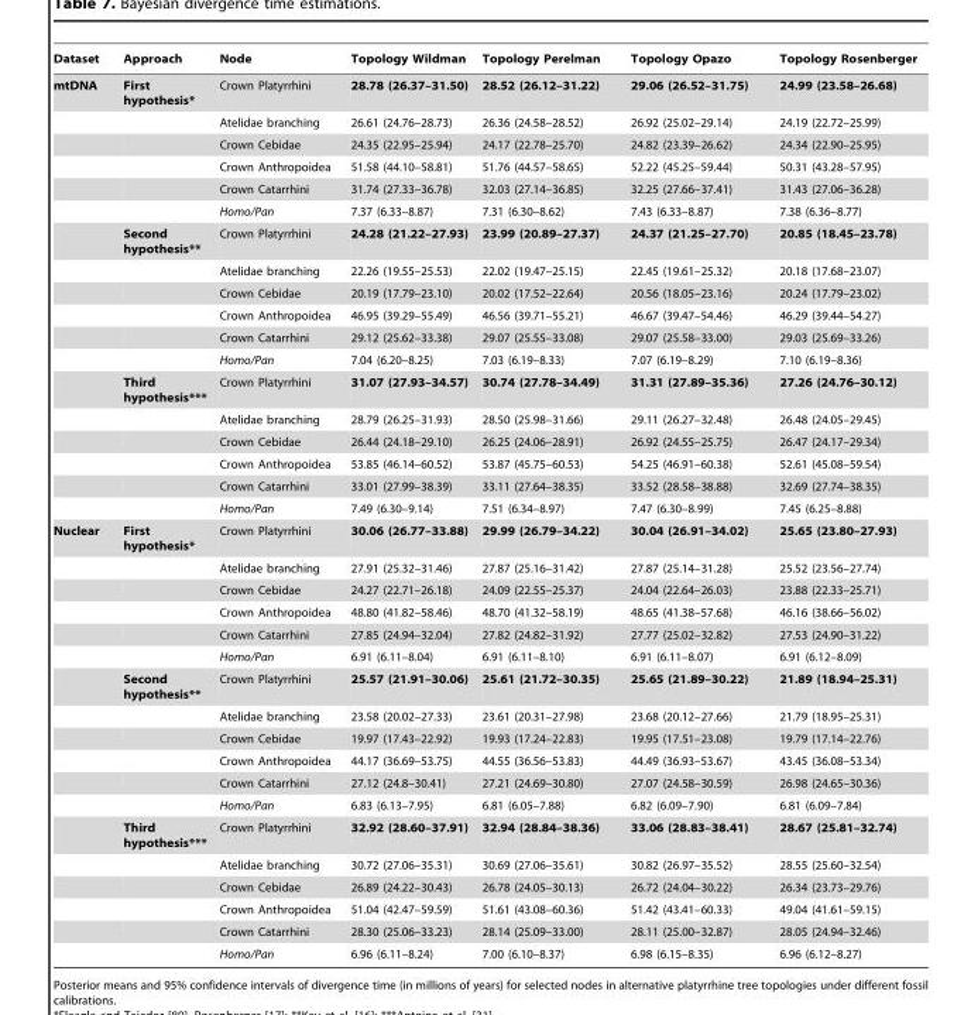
<table><thead><tr><td>Dataset</td><td>Approach</td><td>Node</td><td>Topology Wildman</td><td>Topology Perelman</td><td>Topology Opazo</td><td>Topology Rosenberger</td></tr></thead><tbody><tr><td rowspan="18">mtDNA</td><td>First hypothesis*</td><td>Crown Platyrrhini</td><td>28.78 (26.37–31.50)</td><td>28.52 (26.12–31.22)</td><td>29.06 (26.52–31.75)</td><td>24.99 (23.58–26.68)</td></tr><tr><td></td><td>Atelidae branching</td><td>26.61 (24.76–28.73)</td><td>26.36 (24.58–28.52)</td><td>26.92 (25.02–29.14)</td><td>24.19 (22.72–25.99)</td></tr><tr><td></td><td>Crown Cebidae</td><td>24.35 (22.95–25.94)</td><td>24.17 (22.78–25.70)</td><td>24.82 (23.39–26.62)</td><td>24.34 (22.90–25.95)</td></tr><tr><td></td><td>Crown Anthropoidea</td><td>51.58 (44.10–58.81)</td><td>51.76 (44.57–58.65)</td><td>52.22 (45.25–59.44)</td><td>50.31 (43.28–57.95)</td></tr><tr><td></td><td>Crown Catarrhini</td><td>31.74 (27.33–36.78)</td><td>32.03 (27.14–36.85)</td><td>32.25 (27.66–37.41)</td><td>31.43 (27.06–36.28)</td></tr><tr><td></td><td>Homo/Pan</td><td>7.37 (6.33–8.87)</td><td>7.31 (6.30–8.62)</td><td>7.43 (6.33–8.87)</td><td>7.38 (6.36–8.77)</td></tr><tr><td>Second hypothesis**</td><td>Crown Platyrrhini</td><td>24.28 (21.22–27.93)</td><td>23.99 (20.89–27.37)</td><td>24.37 (21.25–27.70)</td><td>20.85 (18.45–23.78)</td></tr><tr><td></td><td>Atelidae branching</td><td>22.26 (19.55–25.53)</td><td>22.02 (19.47–25.15)</td><td>22.45 (19.61–25.32)</td><td>20.18 (17.68–23.07)</td></tr><tr><td></td><td>Crown Cebidae</td><td>20.19 (17.79–23.10)</td><td>20.02 (17.52–22.64)</td><td>20.56 (18.05–23.16)</td><td>20.24 (17.79–23.02)</td></tr><tr><td></td><td>Crown Anthropoidea</td><td>46.95 (39.29–55.49)</td><td>46.56 (39.71–55.21)</td><td>46.67 (39.47–54.46)</td><td>46.29 (39.44–54.27)</td></tr><tr><td></td><td>Crown Catarrhini</td><td>29.12 (25.62–33.38)</td><td>29.07 (25.55–33.08)</td><td>29.07 (25.58–33.00)</td><td>29.03 (25.69–33.26)</td></tr><tr><td></td><td>Homo/Pan</td><td>7.04 (6.20–8.25)</td><td>7.03 (6.19–8.33)</td><td>7.07 (6.19–8.29)</td><td>7.10 (6.19–8.36)</td></tr><tr><td>Third hypothesis***</td><td>Crown Platyrrhini</td><td>31.07 (27.93–34.57)</td><td>30.74 (27.78–34.49)</td><td>31.31 (27.89–35.36)</td><td>27.26 (24.76–30.12)</td></tr><tr><td></td><td>Atelidae branching</td><td>28.79 (26.25–31.93)</td><td>28.50 (25.98–31.66)</td><td>29.11 (26.27–32.48)</td><td>26.48 (24.05–29.45)</td></tr><tr><td></td><td>Crown Cebidae</td><td>26.44 (24.18–29.10)</td><td>26.25 (24.06–28.91)</td><td>26.92 (24.55–25.75)</td><td>26.47 (24.17–29.34)</td></tr><tr><td></td><td>Crown Anthropoidea</td><td>53.85 (46.14–60.52)</td><td>53.87 (45.75–60.53)</td><td>54.25 (46.91–60.38)</td><td>52.61 (45.08–59.54)</td></tr><tr><td></td><td>Crown Catarrhini</td><td>33.01 (27.99–38.39)</td><td>33.11 (27.64–38.35)</td><td>33.52 (28.58–38.88)</td><td>32.69 (27.74–38.35)</td></tr><tr><td></td><td>Homo/Pan</td><td>7.49 (6.30–9.14)</td><td>7.51 (6.34–8.97)</td><td>7.47 (6.30–8.99)</td><td>7.45 (6.25–8.88)</td></tr><tr><td rowspan="18">Nuclear</td><td>First hypothesis*</td><td>Crown Platyrrhini</td><td>30.06 (26.77–33.88)</td><td>29.99 (26.79–34.22)</td><td>30.04 (26.91–34.02)</td><td>25.65 (23.80–27.93)</td></tr><tr><td></td><td>Atelidae branching</td><td>27.91 (25.32–31.46)</td><td>27.87 (25.16–31.42)</td><td>27.87 (25.14–31.28)</td><td>25.52 (23.56–27.74)</td></tr><tr><td></td><td>Crown Cebidae</td><td>24.27 (22.71–26.18)</td><td>24.09 (22.55–25.37)</td><td>24.04 (22.64–26.03)</td><td>23.88 (22.33–25.71)</td></tr><tr><td></td><td>Crown Anthropoidea</td><td>48.80 (41.82–58.46)</td><td>48.70 (41.32–58.19)</td><td>48.65 (41.38–57.68)</td><td>46.16 (38.66–56.02)</td></tr><tr><td></td><td>Crown Catarrhini</td><td>27.85 (24.94–32.04)</td><td>27.82 (24.82–31.92)</td><td>27.77 (25.02–32.82)</td><td>27.53 (24.90–31.22)</td></tr><tr><td></td><td>Homo/Pan</td><td>6.91 (6.11–8.04)</td><td>6.91 (6.11–8.10)</td><td>6.91 (6.11–8.07)</td><td>6.91 (6.12–8.09)</td></tr><tr><td>Second hypothesis**</td><td>Crown Platyrrhini</td><td>25.57 (21.91–30.06)</td><td>25.61 (21.72–30.35)</td><td>25.65 (21.89–30.22)</td><td>21.89 (18.94–25.31)</td></tr><tr><td></td><td>Atelidae branching</td><td>23.58 (20.02–27.33)</td><td>23.61 (20.31–27.98)</td><td>23.68 (20.12–27.66)</td><td>21.79 (18.95–25.31)</td></tr><tr><td></td><td>Crown Cebidae</td><td>19.97 (17.43–22.92)</td><td>19.93 (17.24–22.83)</td><td>19.95 (17.51–23.08)</td><td>19.79 (17.14–22.76)</td></tr><tr><td></td><td>Crown Anthropoidea</td><td>44.17 (36.69–53.75)</td><td>44.55 (36.56–53.83)</td><td>44.49 (36.93–53.67)</td><td>43.45 (36.08–53.34)</td></tr><tr><td></td><td>Crown Catarrhini</td><td>27.12 (24.8–30.41)</td><td>27.21 (24.69–30.80)</td><td>27.07 (24.58–30.59)</td><td>26.98 (24.65–30.36)</td></tr><tr><td></td><td>Homo/Pan</td><td>6.83 (6.13–7.95)</td><td>6.81 (6.05–7.88)</td><td>6.82 (6.09–7.90)</td><td>6.81 (6.09–7.84)</td></tr><tr><td>Third hypothesis***</td><td>Crown Platyrrhini</td><td>32.92 (28.60–37.91)</td><td>32.94 (28.84–38.36)</td><td>33.06 (28.83–38.41)</td><td>28.67 (25.81–32.74)</td></tr><tr><td></td><td>Atelidae branching</td><td>30.72 (27.06–35.31)</td><td>30.69 (27.06–35.61)</td><td>30.82 (26.97–35.52)</td><td>28.55 (25.60–32.54)</td></tr><tr><td></td><td>Crown Cebidae</td><td>26.89 (24.22–30.43)</td><td>26.78 (24.05–30.13)</td><td>26.72 (24.04–30.22)</td><td>26.34 (23.73–29.76)</td></tr><tr><td></td><td>Crown Anthropoidea</td><td>51.04 (42.47–59.59)</td><td>51.61 (43.08–60.36)</td><td>51.42 (43.41–60.33)</td><td>49.04 (41.61–59.15)</td></tr><tr><td></td><td>Crown Catarrhini</td><td>28.30 (25.06–33.23)</td><td>28.14 (25.09–33.00)</td><td>28.11 (25.00–32.87)</td><td>28.05 (24.94–32.46)</td></tr><tr><td></td><td>Homo/Pan</td><td>6.96 (6.11–8.24)</td><td>7.00 (6.10–8.37)</td><td>6.98 (6.15–8.35)</td><td>6.96 (6.12–8.27)</td></tr></tbody></table>